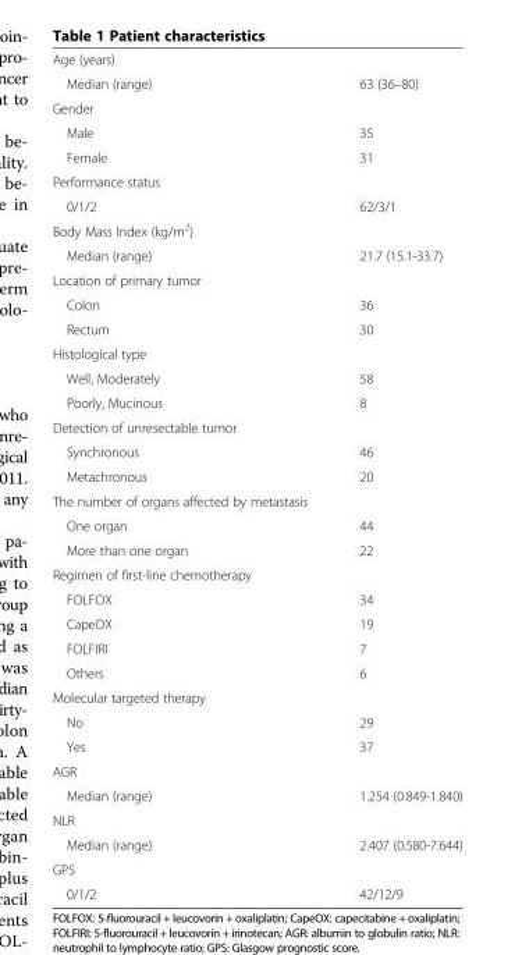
<table><tbody><tr><td colspan="2">Age (years)</td></tr><tr><td>Median (range)</td><td>63 (36–80)</td></tr><tr><td colspan="2">Gender</td></tr><tr><td>Male</td><td>35</td></tr><tr><td>Female</td><td>31</td></tr><tr><td colspan="2">Performance status</td></tr><tr><td>0/1/2</td><td>62/3/1</td></tr><tr><td colspan="2">Body Mass Index (kg/m<sup>2</sup>)</td></tr><tr><td>Median (range)</td><td>21.7 (15.1-33.7)</td></tr><tr><td colspan="2">Location of primary tumor</td></tr><tr><td>Colon</td><td>36</td></tr><tr><td>Rectum</td><td>30</td></tr><tr><td colspan="2">Histological type</td></tr><tr><td>Well, Moderately</td><td>58</td></tr><tr><td>Poorly, Mucinous</td><td>8</td></tr><tr><td colspan="2">Detection of unresectable tumor</td></tr><tr><td>Synchronous</td><td>46</td></tr><tr><td>Metachronous</td><td>20</td></tr><tr><td colspan="2">The number of organs affected by metastasis</td></tr><tr><td>One organ</td><td>44</td></tr><tr><td>More than one organ</td><td>22</td></tr><tr><td colspan="2">Regimen of first-line chemotherapy</td></tr><tr><td>FOLFOX</td><td>34</td></tr><tr><td>CapeOX</td><td>19</td></tr><tr><td>FOLFIRI</td><td>7</td></tr><tr><td>Others</td><td>6</td></tr><tr><td colspan="2">Molecular targeted therapy</td></tr><tr><td>No</td><td>29</td></tr><tr><td>Yes</td><td>37</td></tr><tr><td colspan="2">AGR</td></tr><tr><td>Median (range)</td><td>1.254 (0.849-1.840)</td></tr><tr><td colspan="2">NLR</td></tr><tr><td>Median (range)</td><td>2.407 (0.580-7.644)</td></tr><tr><td colspan="2">GPS</td></tr><tr><td>0/1/2</td><td>42/12/9</td></tr></tbody></table>